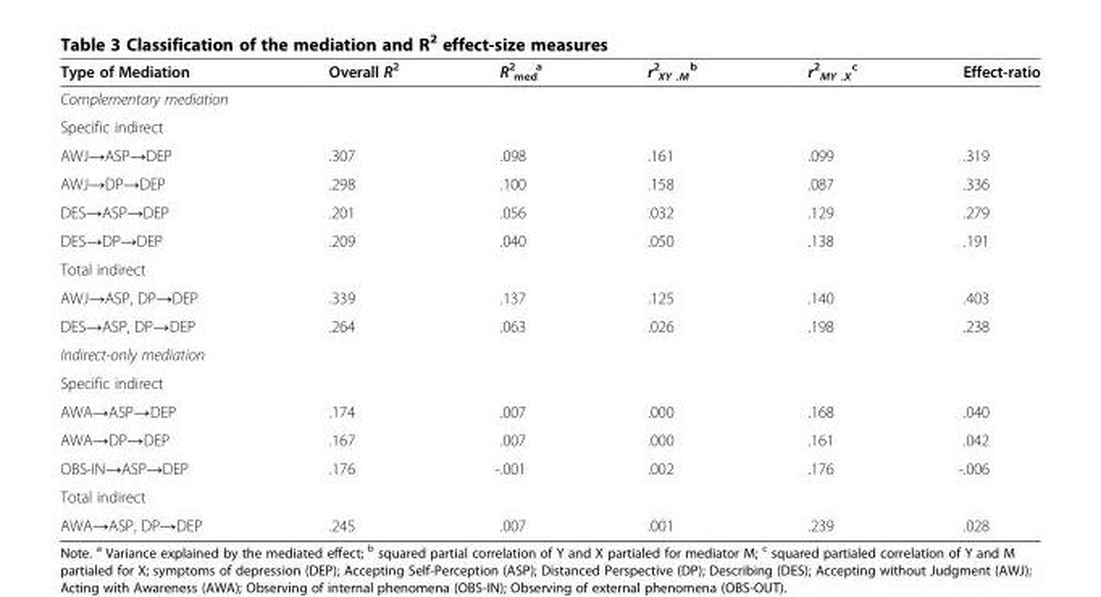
<table><thead><tr><td>Type of Mediation</td><td>Overall R<sup>2</sup></td><td>R<sup>2</sup> <sub>med</sub> <sup>a</sup></td><td>r<sup>2</sup> <sub>XY .M</sub> <sup>b</sup></td><td>r<sup>2</sup> <sub>MY .X</sub> <sup>c</sup></td><td>Effect-ratio</td></tr></thead><tbody><tr><td colspan="6">Complementary mediation</td></tr><tr><td colspan="6">Specific indirect</td></tr><tr><td>AWJ→ASP→DEP</td><td>.307</td><td>.098</td><td>.161</td><td>.099</td><td>.319</td></tr><tr><td>AWJ→DP→DEP</td><td>.298</td><td>.100</td><td>.158</td><td>.087</td><td>.336</td></tr><tr><td>DES→ASP→DEP</td><td>.201</td><td>.056</td><td>.032</td><td>.129</td><td>.279</td></tr><tr><td>DES→DP→DEP</td><td>.209</td><td>.040</td><td>.050</td><td>.138</td><td>.191</td></tr><tr><td colspan="6">Total indirect</td></tr><tr><td>AWJ→ASP, DP→DEP</td><td>.339</td><td>.137</td><td>.125</td><td>.140</td><td>.403</td></tr><tr><td>DES→ASP, DP→DEP</td><td>.264</td><td>.063</td><td>.026</td><td>.198</td><td>.238</td></tr><tr><td colspan="6">Indirect-only mediation</td></tr><tr><td colspan="6">Specific indirect</td></tr><tr><td>AWA→ASP→DEP</td><td>.174</td><td>.007</td><td>.000</td><td>.168</td><td>.040</td></tr><tr><td>AWA→DP→DEP</td><td>.167</td><td>.007</td><td>.000</td><td>.161</td><td>.042</td></tr><tr><td>OBS-IN→ASP→DEP</td><td>.176</td><td>-.001</td><td>.002</td><td>.176</td><td>-.006</td></tr><tr><td colspan="6">Total indirect</td></tr><tr><td>AWA→ASP, DP→DEP</td><td>.245</td><td>.007</td><td>.001</td><td>.239</td><td>.028</td></tr></tbody></table>